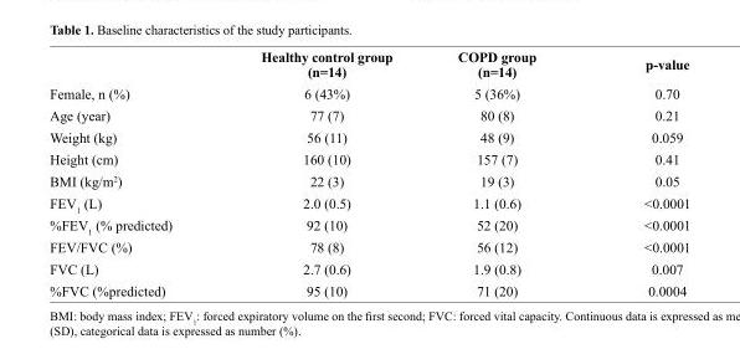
<table><thead><tr><td></td><td>Healthy control group (n=14)</td><td>COPD group (n=14)</td><td>p-value</td></tr></thead><tbody><tr><td>Female, n (%)</td><td>6 (43%)</td><td>5 (36%)</td><td>0.70</td></tr><tr><td>Age (year)</td><td>77 (7)</td><td>80 (8)</td><td>0.21</td></tr><tr><td>Weight (kg)</td><td>56 (11)</td><td>48 (9)</td><td>0.059</td></tr><tr><td>Height (cm)</td><td>160 (10)</td><td>157 (7)</td><td>0.41</td></tr><tr><td>BMI (kg/m<sup>2)</sup></td><td>22 (3)</td><td>19 (3)</td><td>0.05</td></tr><tr><td>FEV<sub>1</sub> (L)</td><td>2.0 (0.5)</td><td>1.1 (0.6)</td><td>&lt;0.0001</td></tr><tr><td>%FEV<sub>1</sub> (% predicted)</td><td>92 (10)</td><td>52 (20)</td><td>&lt;0.0001</td></tr><tr><td>FEV/FVC (%)</td><td>78 (8)</td><td>56 (12)</td><td>&lt;0.0001</td></tr><tr><td>FVC (L)</td><td>2.7 (0.6)</td><td>1.9 (0.8)</td><td>0.007</td></tr><tr><td>%FVC (%predicted)</td><td>95 (10)</td><td>71 (20)</td><td>0.0004</td></tr></tbody></table>